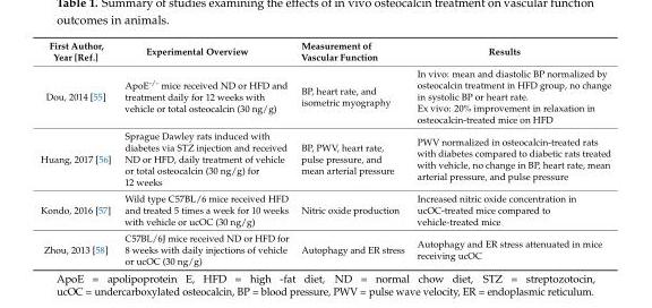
<table><thead><tr><td>First Author, Year [Ref.]</td><td>Experimental Overview</td><td>Measurement of Vascular Function</td><td>Results</td></tr></thead><tbody><tr><td>Dou, 2014 [55]</td><td>ApoE<sup>-/-</sup> mice received ND or HFD and treatment daily for 12 weeks with vehicle or total osteocalcin (30 ng/g)</td><td>BP, heart rate, and isometric myography</td><td>In vivo: mean and diastolic BP normalized by osteocalcin treatment in HFD group, no change in systolic BP or heart rate. Ex vivo: 20% improvement in relaxation in osteocalcin-treated mice on HFD</td></tr><tr><td>Huang, 2017 [56]</td><td>Sprague Dawley rats induced with diabetes via STZ injection and received ND or HFD, daily treatment of vehicle or total osteocalcin (30 ng/g) for 12 weeks</td><td>BP, PWV, heart rate, pulse pressure, and mean arterial pressure</td><td>PWV normalized in osteocalcin-treated rats with diabetes compared to diabetic rats treated with vehicle, no change in BP, heart rate, mean arterial pressure, and pulse pressure</td></tr><tr><td>Kondo, 2016 [57]</td><td>Wild type C57BL/6 mice received HFD and treated 5 times a week for 10 weeks with vehicle or ucOC (30 ng/g)</td><td>Nitric oxide production</td><td>Increased nitric oxide concentration in ucOC-treated mice compared to vehicle-treated mice</td></tr><tr><td>Zhou, 2013 [58]</td><td>C57BL/6J mice received ND or HFD for 8 weeks with daily injections of vehicle or ucOC (30 ng/g)</td><td>Autophagy and ER stress</td><td>Autophagy and ER stress attenuated in mice receiving ucOC</td></tr></tbody></table>